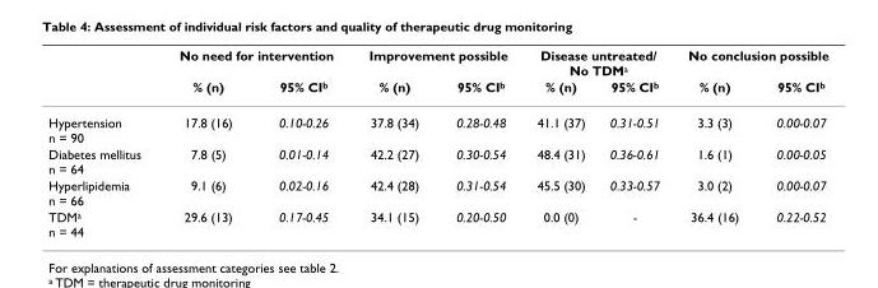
<table><thead><tr><td rowspan="2"></td><td colspan="2">No need for intervention</td><td colspan="2">Improvement possible</td><td colspan="2">Disease untreated/ No TDM<sup>a</sup></td><td colspan="2">No conclusion possible</td></tr><tr><td>% (n)</td><td>95% CI<sup>b</sup></td><td>% (n)</td><td>95% CI<sup>b</sup></td><td>% (n)</td><td>95% CI<sup>b</sup></td><td>% (n)</td><td>95% CI<sup>b</sup></td></tr></thead><tbody><tr><td>Hypertension n = 90</td><td>17.8 (16)</td><td>0.10-0.26</td><td>37.8 (34)</td><td>0.28-0.48</td><td>41.1 (37)</td><td>0.31-0.51</td><td>3.3 (3)</td><td>0.00-0.07</td></tr><tr><td>Diabetes mellitus n = 64</td><td>7.8 (5)</td><td>0.01-0.14</td><td>42.2 (27)</td><td>0.30-0.54</td><td>48.4 (31)</td><td>0.36-0.61</td><td>1.6 (1)</td><td>0.00-0.05</td></tr><tr><td>Hyperlipidemia n = 66</td><td>9.1 (6)</td><td>0.02-0.16</td><td>42.4 (28)</td><td>0.31-0.54</td><td>45.5 (30)</td><td>0.33-0.57</td><td>3.0 (2)</td><td>0.00-0.07</td></tr><tr><td>TDM<sup>a</sup> n = 44</td><td>29.6 (13)</td><td>0.17-0.45</td><td>34.1 (15)</td><td>0.20-0.50</td><td>0.0 (0)</td><td>-</td><td>36.4 (16)</td><td>0.22-0.52</td></tr></tbody></table>